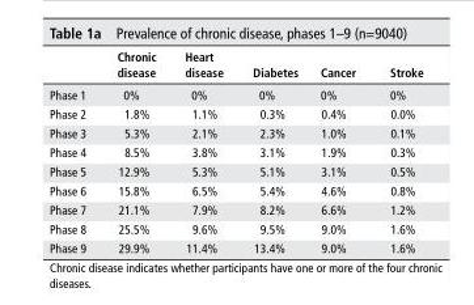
<table><thead><tr><td></td><td>Chronic disease</td><td>heart disease</td><td>diabetes</td><td>Cancer</td><td>stroke</td></tr></thead><tbody><tr><td>Phase 1</td><td>0%</td><td>0%</td><td>0%</td><td>0%</td><td>0%</td></tr><tr><td>Phase 2</td><td>1.8%</td><td>1.1%</td><td>0.3%</td><td>0.4%</td><td>0.0%</td></tr><tr><td>Phase 3</td><td>5.3%</td><td>2.1%</td><td>2.3%</td><td>1.0%</td><td>0.1%</td></tr><tr><td>Phase 4</td><td>8.5%</td><td>3.8%</td><td>3.1%</td><td>1.9%</td><td>0.3%</td></tr><tr><td>Phase 5</td><td>12.9%</td><td>5.3%</td><td>5.1%</td><td>3.1%</td><td>0.5%</td></tr><tr><td>Phase 6</td><td>15.8%</td><td>6.5%</td><td>5.4%</td><td>4.6%</td><td>0.8%</td></tr><tr><td>Phase 7</td><td>21.1%</td><td>7.9%</td><td>8.2%</td><td>6.6%</td><td>1.2%</td></tr><tr><td>Phase 8</td><td>25.5%</td><td>9.6%</td><td>9.5%</td><td>9.0%</td><td>1.6%</td></tr><tr><td>Phase 9</td><td>29.9%</td><td>11.4%</td><td>13.4%</td><td>9.0%</td><td>1.6%</td></tr></tbody></table>